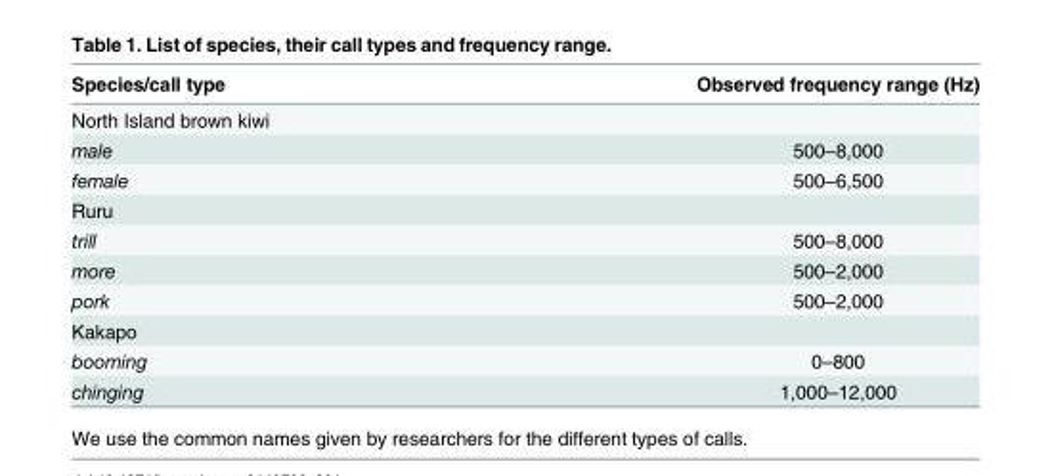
<table><thead><tr><td>Species/call type</td><td>Observed frequency range (Hz)</td></tr></thead><tbody><tr><td colspan="2">North Island brown kiwi</td></tr><tr><td>male</td><td>500–8,000</td></tr><tr><td>female</td><td>500–6,500</td></tr><tr><td colspan="2">Ruru</td></tr><tr><td>trill</td><td>500–8,000</td></tr><tr><td>more</td><td>500–2,000</td></tr><tr><td>pork</td><td>500–2,000</td></tr><tr><td colspan="2">Kakapo</td></tr><tr><td>booming</td><td>0–800</td></tr><tr><td>chinging</td><td>1,000–12,000</td></tr></tbody></table>